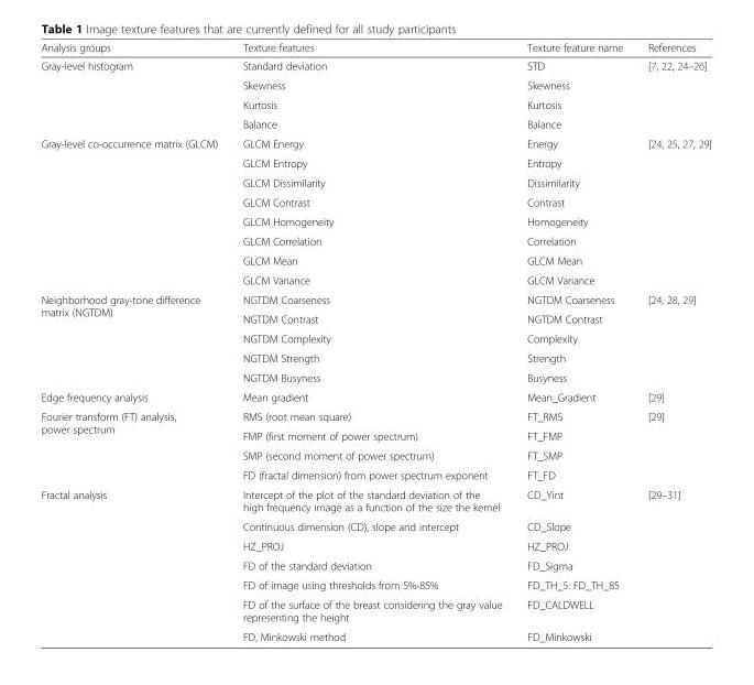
<table><thead><tr><td>Analysis groups</td><td>Texture features</td><td>Texture feature name</td><td>References</td></tr></thead><tbody><tr><td rowspan="4">Gray-level histogram</td><td>Standard deviation</td><td>STD</td><td rowspan="4">[7, 22, 24–26]</td></tr><tr><td>Skewness</td><td>Skewness</td></tr><tr><td>Kurtosis</td><td>Kurtosis</td></tr><tr><td>Balance</td><td>Balance</td></tr><tr><td rowspan="8">Gray-level co-occurrence matrix (GLCM)</td><td>GLCM Energy</td><td>Energy</td><td rowspan="8">[24, 25, 27, 29]</td></tr><tr><td>GLCM Entropy</td><td>Entropy</td></tr><tr><td>GLCM Dissimilarity</td><td>Dissimilarity</td></tr><tr><td>GLCM Contrast</td><td>Contrast</td></tr><tr><td>GLCM Homogeneity</td><td>Homogeneity</td></tr><tr><td>GLCM Correlation</td><td>Correlation</td></tr><tr><td>GLCM Mean</td><td>GLCM Mean</td></tr><tr><td>GLCM Variance</td><td>GLCM Variance</td></tr><tr><td rowspan="5">Neighborhood gray-tone difference matrix (NGTDM)</td><td>NGTDM Coarseness</td><td>NGTDM Coarseness</td><td rowspan="5">[24, 28, 29]</td></tr><tr><td>NGTDM Contrast</td><td>NGTDM Contrast</td></tr><tr><td>NGTDM Complexity</td><td>Complexity</td></tr><tr><td>NGTDM Strength</td><td>Strength</td></tr><tr><td>NGTDM Busyness</td><td>Busyness</td></tr><tr><td>Edge frequency analysis</td><td>Mean gradient</td><td>Mean_Gradient</td><td>[29]</td></tr><tr><td rowspan="4">Fourier transform (FT) analysis, power spectrum</td><td>RMS (root mean square)</td><td>FT_RMS</td><td rowspan="4">[29]</td></tr><tr><td>FMP (first moment of power spectrum)</td><td>FT_FMP</td></tr><tr><td>SMP (second moment of power spectrum)</td><td>FT_SMP</td></tr><tr><td>FD (fractal dimension) from power spectrum exponent</td><td>FT_FD</td></tr><tr><td rowspan="7">Fractal analysis</td><td>Intercept of the plot of the standard deviation of the high frequency image as a function of the size the kernel</td><td>CD_Yint</td><td rowspan="7">[29–31]</td></tr><tr><td>Continuous dimension (CD), slope and intercept</td><td>CD_Slope</td></tr><tr><td>HZ_PROJ</td><td>HZ_PROJ</td></tr><tr><td>FD of the standard deviation</td><td>FD_Sigma</td></tr><tr><td>FD of image using thresholds from 5%-85%</td><td>FD_TH_5: FD_TH_85</td></tr><tr><td>FD of the surface of the breast considering the gray value representing the height</td><td>FD_CALDWELL</td></tr><tr><td>FD, Minkowski method</td><td>FD_Minkowski</td></tr></tbody></table>